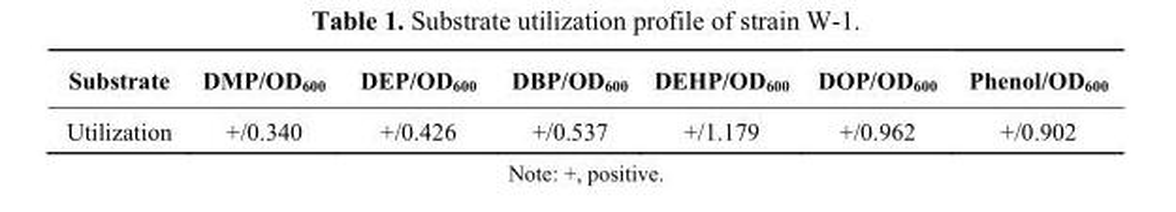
<table><thead><tr><td>Substrate</td><td>DMP/OD<sub>600</sub></td><td>DEP/OD<sub>600</sub></td><td>DBP/OD<sub>600</sub></td><td>DEHP/OD<sub>600</sub></td><td>DOP/OD<sub>600</sub></td><td>Phenol/OD<sub>600</sub></td></tr></thead><tbody><tr><td>Utilization</td><td>+/0.340</td><td>+/0.426</td><td>+/0.537</td><td>+/1.179</td><td>+/0.962</td><td>+/0.902</td></tr></tbody></table>